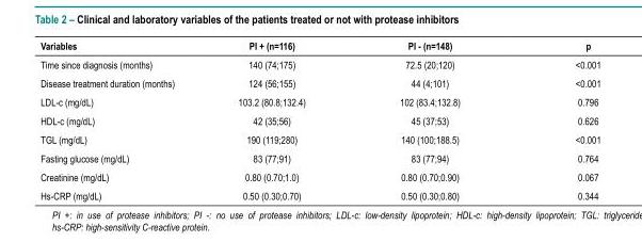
<table><thead><tr><td>Variables</td><td>PI + (n=116)</td><td>PI - (n=148)</td><td>p</td></tr></thead><tbody><tr><td>Time since diagnosis (months)</td><td>140 (74;175)</td><td>72.5 (20;120)</td><td>&lt;0.001</td></tr><tr><td>Disease treatment duration (months)</td><td>124 (56;155)</td><td>44 (4;101)</td><td>&lt;0.001</td></tr><tr><td>LDL-c (mg/dL)</td><td>103.2 (80.8;132.4)</td><td>102 (83.4;132.8)</td><td>0.796</td></tr><tr><td>HDL-c (mg/dL)</td><td>42 (35;56)</td><td>45 (37;53)</td><td>0.626</td></tr><tr><td>TGL (mg/dL)</td><td>190 (119;280)</td><td>140 (100;188.5)</td><td>&lt;0.001</td></tr><tr><td>Fasting glucose (mg/dL)</td><td>83 (77;91)</td><td>83 (77;94)</td><td>0.764</td></tr><tr><td>Creatinine (mg/dL)</td><td>0.80 (0.70;1.0)</td><td>0.80 (0.70;0.90)</td><td>0.067</td></tr><tr><td>Hs-CRP (mg/dL)</td><td>0.50 (0.30;0.70)</td><td>0.50 (0.30;0.80)</td><td>0.344</td></tr></tbody></table>